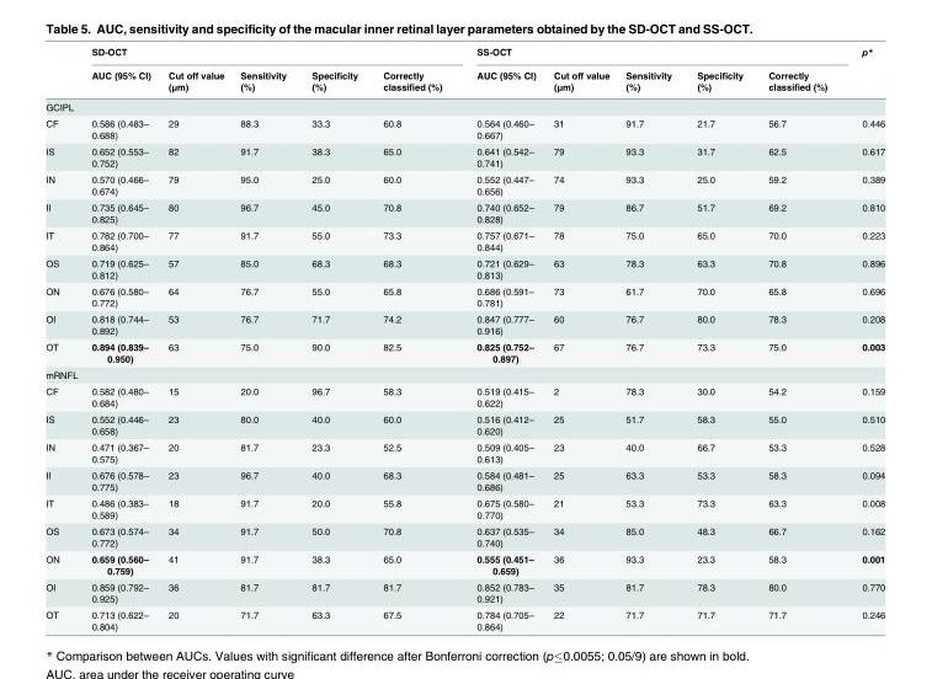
<table><thead><tr><td rowspan="2"></td><td colspan="5">SD-OCT</td><td colspan="5">SS-OCT</td><td rowspan="2">p*</td></tr><tr><td>AUC (95% CI)</td><td>Cut off value (μm)</td><td>Sensitivity (%)</td><td>Specificity (%)</td><td>Correctly classified (%)</td><td>AUC (95% CI)</td><td>Cut off value (μm)</td><td>Sensitivity (%)</td><td>Specificity (%)</td><td>Correctly classified (%)</td></tr></thead><tbody><tr><td colspan="12">GCIPL</td></tr><tr><td>CF</td><td>0.586 (0.483– 0.688)</td><td>29</td><td>88.3</td><td>33.3</td><td>60.8</td><td>0.564 (0.460– 0.667)</td><td>31</td><td>91.7</td><td>21.7</td><td>56.7</td><td>0.446</td></tr><tr><td>IS</td><td>0.652 (0.553– 0.752)</td><td>82</td><td>91.7</td><td>38.3</td><td>65.0</td><td>0.641 (0.542– 0.741)</td><td>79</td><td>93.3</td><td>31.7</td><td>62.5</td><td>0.617</td></tr><tr><td>IN</td><td>0.570 (0.466– 0.674)</td><td>79</td><td>95.0</td><td>25.0</td><td>60.0</td><td>0.552 (0.447– 0.656)</td><td>74</td><td>93.3</td><td>25.0</td><td>59.2</td><td>0.389</td></tr><tr><td>II</td><td>0.735 (0.645– 0.825)</td><td>80</td><td>96.7</td><td>45.0</td><td>70.8</td><td>0.740 (0.652– 0.828)</td><td>79</td><td>86.7</td><td>51.7</td><td>69.2</td><td>0.810</td></tr><tr><td>IT</td><td>0.782 (0.700– 0.864)</td><td>77</td><td>91.7</td><td>55.0</td><td>73.3</td><td>0.757 (0.671– 0.844)</td><td>78</td><td>75.0</td><td>65.0</td><td>70.0</td><td>0.223</td></tr><tr><td>OS</td><td>0.719 (0.625– 0.812)</td><td>57</td><td>85.0</td><td>68.3</td><td>68.3</td><td>0.721 (0.629– 0.813)</td><td>63</td><td>78.3</td><td>63.3</td><td>70.8</td><td>0.896</td></tr><tr><td>ON</td><td>0.676 (0.580– 0.772)</td><td>64</td><td>76.7</td><td>55.0</td><td>65.8</td><td>0.686 (0.591– 0.781)</td><td>73</td><td>61.7</td><td>70.0</td><td>65.8</td><td>0.696</td></tr><tr><td>OI</td><td>0.818 (0.744– 0.892)</td><td>53</td><td>76.7</td><td>71.7</td><td>74.2</td><td>0.847 (0.777– 0.916)</td><td>60</td><td>76.7</td><td>80.0</td><td>78.3</td><td>0.208</td></tr><tr><td>OT</td><td>0.894 (0.839– 0.950)</td><td>63</td><td>75.0</td><td>90.0</td><td>82.5</td><td>0.825 (0.752– 0.897)</td><td>67</td><td>76.7</td><td>73.3</td><td>75.0</td><td>0.003</td></tr><tr><td colspan="12">mRNFL</td></tr><tr><td>CF</td><td>0.582 (0.480– 0.684)</td><td>15</td><td>20.0</td><td>96.7</td><td>58.3</td><td>0.519 (0.415– 0.622)</td><td>2</td><td>78.3</td><td>30.0</td><td>54.2</td><td>0.159</td></tr><tr><td>IS</td><td>0.552 (0.446– 0.658)</td><td>23</td><td>80.0</td><td>40.0</td><td>60.0</td><td>0.516 (0.412– 0.620)</td><td>25</td><td>51.7</td><td>58.3</td><td>55.0</td><td>0.510</td></tr><tr><td>IN</td><td>0.471 (0.367– 0.575)</td><td>20</td><td>81.7</td><td>23.3</td><td>52.5</td><td>0.509 (0.405– 0.613)</td><td>23</td><td>40.0</td><td>66.7</td><td>53.3</td><td>0.528</td></tr><tr><td>II</td><td>0.676 (0.578– 0.775)</td><td>23</td><td>96.7</td><td>40.0</td><td>68.3</td><td>0.584 (0.481– 0.686)</td><td>25</td><td>63.3</td><td>53.3</td><td>58.3</td><td>0.094</td></tr><tr><td>IT</td><td>0.486 (0.383– 0.589)</td><td>18</td><td>91.7</td><td>20.0</td><td>55.8</td><td>0.675 (0.580– 0.770)</td><td>21</td><td>53.3</td><td>73.3</td><td>63.3</td><td>0.008</td></tr><tr><td>OS</td><td>0.673 (0.574– 0.772)</td><td>34</td><td>91.7</td><td>50.0</td><td>70.8</td><td>0.637 (0.535– 0.740)</td><td>34</td><td>85.0</td><td>48.3</td><td>66.7</td><td>0.162</td></tr><tr><td>ON</td><td>0.659 (0.560– 0.759)</td><td>41</td><td>91.7</td><td>38.3</td><td>65.0</td><td>0.555 (0.451– 0.659)</td><td>36</td><td>93.3</td><td>23.3</td><td>58.3</td><td>0.001</td></tr><tr><td>OI</td><td>0.859 (0.792– 0.925)</td><td>36</td><td>81.7</td><td>81.7</td><td>81.7</td><td>0.852 (0.783– 0.921)</td><td>35</td><td>81.7</td><td>78.3</td><td>80.0</td><td>0.770</td></tr><tr><td>OT</td><td>0.713 (0.622– 0.804)</td><td>20</td><td>71.7</td><td>63.3</td><td>67.5</td><td>0.784 (0.705– 0.864)</td><td>22</td><td>71.7</td><td>71.7</td><td>71.7</td><td>0.246</td></tr></tbody></table>